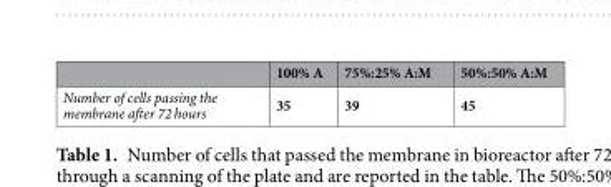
<table><thead><tr><td></td><td>100% A</td><td>75%:25% A:M</td><td>50%:50% A:M</td></tr></thead><tbody><tr><td>Number of cells passing the membrane after 72 hours</td><td>35</td><td>39</td><td>45</td></tr></tbody></table>